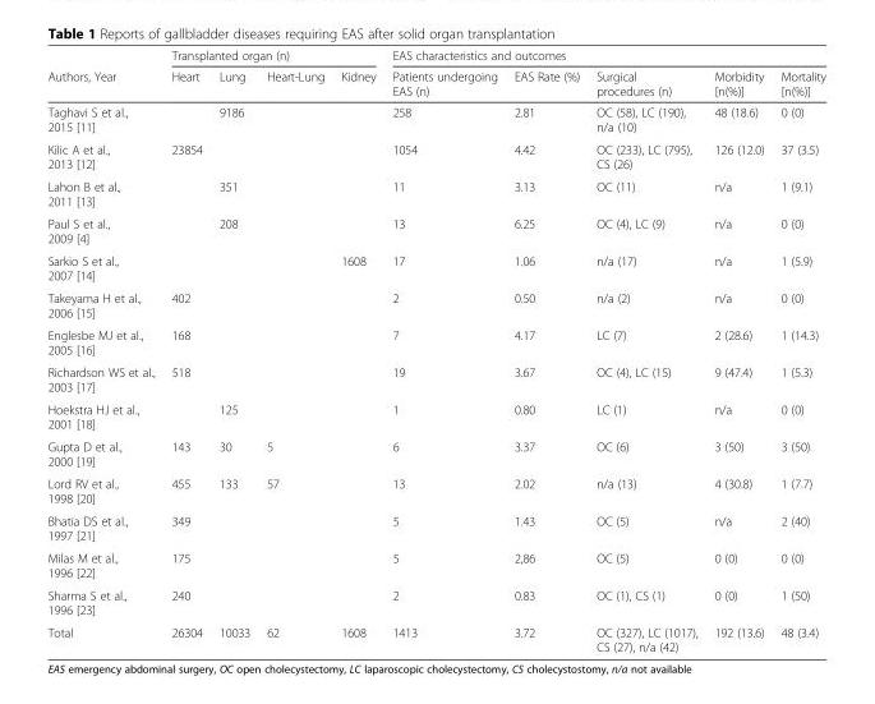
<table><thead><tr><td rowspan="2">Authors, Year</td><td colspan="4">Transplanted organ (n)</td><td colspan="5">EAS characteristics and outcomes</td></tr><tr><td>Heart</td><td>Lung</td><td>Heart-Lung</td><td>Kidney</td><td>Patients undergoing EAS (n)</td><td>EAS Rate (%)</td><td>Surgical procedures (n)</td><td>Morbidity [n(%)]</td><td>Mortality [n(%)]</td></tr></thead><tbody><tr><td>Taghavi S et al., 2015 [11]</td><td></td><td>9186</td><td></td><td></td><td>258</td><td>2.81</td><td>OC (58), LC (190), n/a (10)</td><td>48 (18.6)</td><td>0 (0)</td></tr><tr><td>Kilic A et al., 2013 [12]</td><td>23854</td><td></td><td></td><td></td><td>1054</td><td>4.42</td><td>OC (233), LC (795), CS (26)</td><td>126 (12.0)</td><td>37 (3.5)</td></tr><tr><td>Lahon B et al., 2011 [13]</td><td></td><td>351</td><td></td><td></td><td>11</td><td>3.13</td><td>OC (11)</td><td>n/a</td><td>1 (9.1)</td></tr><tr><td>Paul S et al., 2009 [4]</td><td></td><td>208</td><td></td><td></td><td>13</td><td>6.25</td><td>OC (4), LC (9)</td><td>n/a</td><td>0 (0)</td></tr><tr><td>Sarkio S et al., 2007 [14]</td><td></td><td></td><td></td><td>1608</td><td>17</td><td>1.06</td><td>n/a (17)</td><td>n/a</td><td>1 (5.9)</td></tr><tr><td>Takeyama H et al., 2006 [15]</td><td>402</td><td></td><td></td><td></td><td>2</td><td>0.50</td><td>n/a (2)</td><td>n/a</td><td>0 (0)</td></tr><tr><td>Englesbe MJ et al., 2005 [16]</td><td>168</td><td></td><td></td><td></td><td>7</td><td>4.17</td><td>LC (7)</td><td>2 (28.6)</td><td>1 (14.3)</td></tr><tr><td>Richardson WS et al., 2003 [17]</td><td>518</td><td></td><td></td><td></td><td>19</td><td>3.67</td><td>OC (4), LC (15)</td><td>9 (47.4)</td><td>1 (5.3)</td></tr><tr><td>Hoekstra HJ et al., 2001 [18]</td><td></td><td>125</td><td></td><td></td><td>1</td><td>0.80</td><td>LC (1)</td><td>n/a</td><td>0 (0)</td></tr><tr><td>Gupta D et al., 2000 [19]</td><td>143</td><td>30</td><td>5</td><td></td><td>6</td><td>3.37</td><td>OC (6)</td><td>3 (50)</td><td>3 (50)</td></tr><tr><td>Lord RV et al., 1998 [20]</td><td>455</td><td>133</td><td>57</td><td></td><td>13</td><td>2.02</td><td>n/a (13)</td><td>4 (30.8)</td><td>1 (7.7)</td></tr><tr><td>Bhatia DS et al., 1997 [21]</td><td>349</td><td></td><td></td><td></td><td>5</td><td>1.43</td><td>OC (5)</td><td>n/a</td><td>2 (40)</td></tr><tr><td>Milas M et al., 1996 [22]</td><td>175</td><td></td><td></td><td></td><td>5</td><td>2,86</td><td>OC (5)</td><td>0 (0)</td><td>0 (0)</td></tr><tr><td>Sharma S et al., 1996 [23]</td><td>240</td><td></td><td></td><td></td><td>2</td><td>0.83</td><td>OC (1), CS (1)</td><td>0 (0)</td><td>1 (50)</td></tr><tr><td>Total</td><td>26304</td><td>10033</td><td>62</td><td>1608</td><td>1413</td><td>3.72</td><td>OC (327), LC (1017), CS (27), n/a (42)</td><td>192 (13.6)</td><td>48 (3.4)</td></tr></tbody></table>